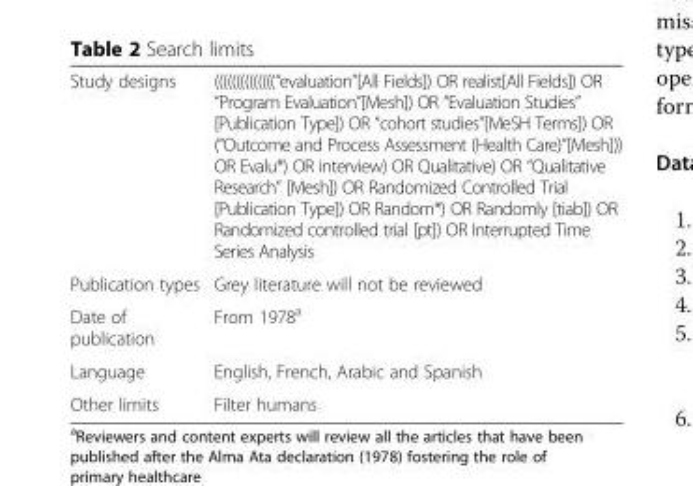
<table><tbody><tr><td>Study designs</td><td>((((((((((((((“evaluation”[All Fields]) OR realist[All Fields]) OR “Program Evaluation”[Mesh]) OR “Evaluation Studies” [Publication Type]) OR “cohort studies”[MeSH Terms]) OR (“Outcome and Process Assessment (Health Care)”[Mesh])) OR Evalu*) OR interview) OR Qualitative) OR “Qualitative Research” [Mesh]) OR Randomized Controlled Trial [Publication Type]) OR Random*) OR Randomly [tiab]) OR Randomized controlled trial [pt]) OR Interrupted Time Series Analysis</td></tr><tr><td>Publication types</td><td>Grey literature will not be reviewed</td></tr><tr><td>Date of publication</td><td>From 1978<sup>a</sup></td></tr><tr><td>Language</td><td>English, French, Arabic and Spanish</td></tr><tr><td>Other limits</td><td>Filter humans</td></tr></tbody></table>